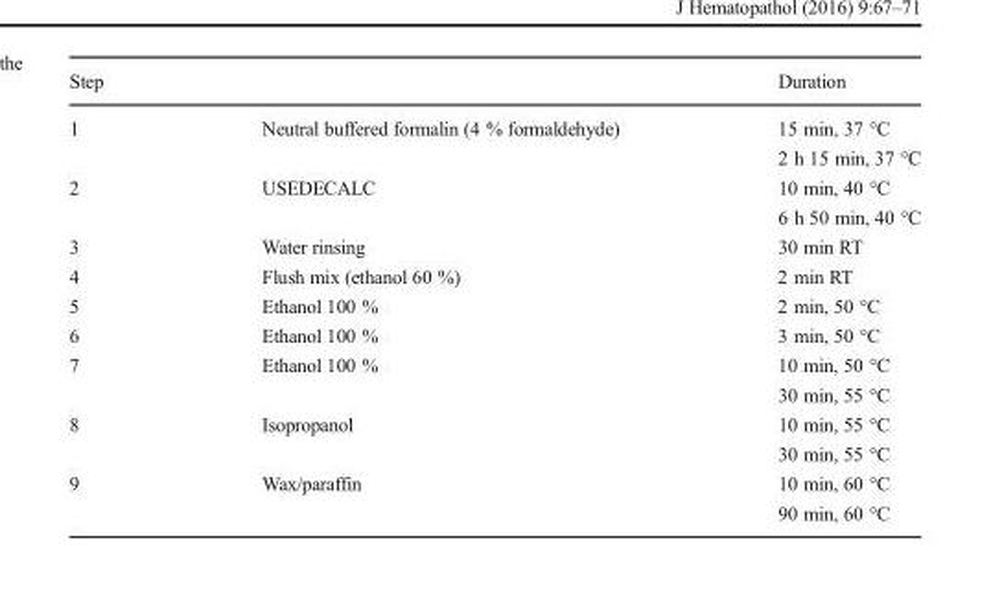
<table><thead><tr><td>Step</td><td></td><td>Duration</td></tr></thead><tbody><tr><td rowspan="2">1</td><td rowspan="2">Neutral buffered formalin (4 % formaldehyde)</td><td>15 min, 37 °C</td></tr><tr><td>2 h 15 min, 37 °C</td></tr><tr><td rowspan="2">2</td><td rowspan="2">USEDECALC</td><td>10 min, 40 °C</td></tr><tr><td>6 h 50 min, 40 °C</td></tr><tr><td>3</td><td>Water rinsing</td><td>30 min RT</td></tr><tr><td>4</td><td>Flush mix (ethanol 60 %)</td><td>2 min RT</td></tr><tr><td>5</td><td>Ethanol 100 %</td><td>2 min, 50 °C</td></tr><tr><td>6</td><td>Ethanol 100 %</td><td>3 min, 50 °C</td></tr><tr><td rowspan="2">7</td><td rowspan="2">Ethanol 100 %</td><td>10 min, 50 °C</td></tr><tr><td>30 min, 55 °C</td></tr><tr><td rowspan="2">8</td><td rowspan="2">Isopropanol</td><td>10 min, 55 °C</td></tr><tr><td>30 min, 55 °C</td></tr><tr><td rowspan="2">9</td><td rowspan="2">Wax/paraffin</td><td>10 min, 60 °C</td></tr><tr><td>90 min, 60 °C</td></tr></tbody></table>